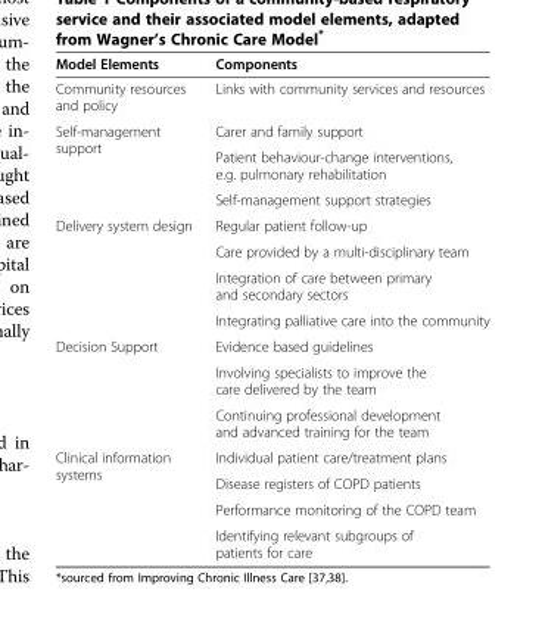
<table><thead><tr><td>Model Elements</td><td>Components</td></tr></thead><tbody><tr><td>Community resources and policy</td><td>Links with community services and resources</td></tr><tr><td rowspan="3">Self-management support</td><td>Carer and family support</td></tr><tr><td>Patient behaviour-change interventions, e.g. pulmonary rehabilitation</td></tr><tr><td>Self-management support strategies</td></tr><tr><td rowspan="4">Delivery system design</td><td>Regular patient follow-up</td></tr><tr><td>Care provided by a multi-disciplinary team</td></tr><tr><td>Integration of care between primary and secondary sectors</td></tr><tr><td>Integrating palliative care into the community</td></tr><tr><td rowspan="3">Decision Support</td><td>Evidence based guidelines</td></tr><tr><td>Involving specialists to improve the care delivered by the team</td></tr><tr><td>Continuing professional development and advanced training for the team</td></tr><tr><td rowspan="4">Clinical information systems</td><td>Individual patient care/treatment plans</td></tr><tr><td>Disease registers of COPD patients</td></tr><tr><td>Performance monitoring of the COPD team</td></tr><tr><td>Identifying relevant subgroups of patients for care</td></tr></tbody></table>